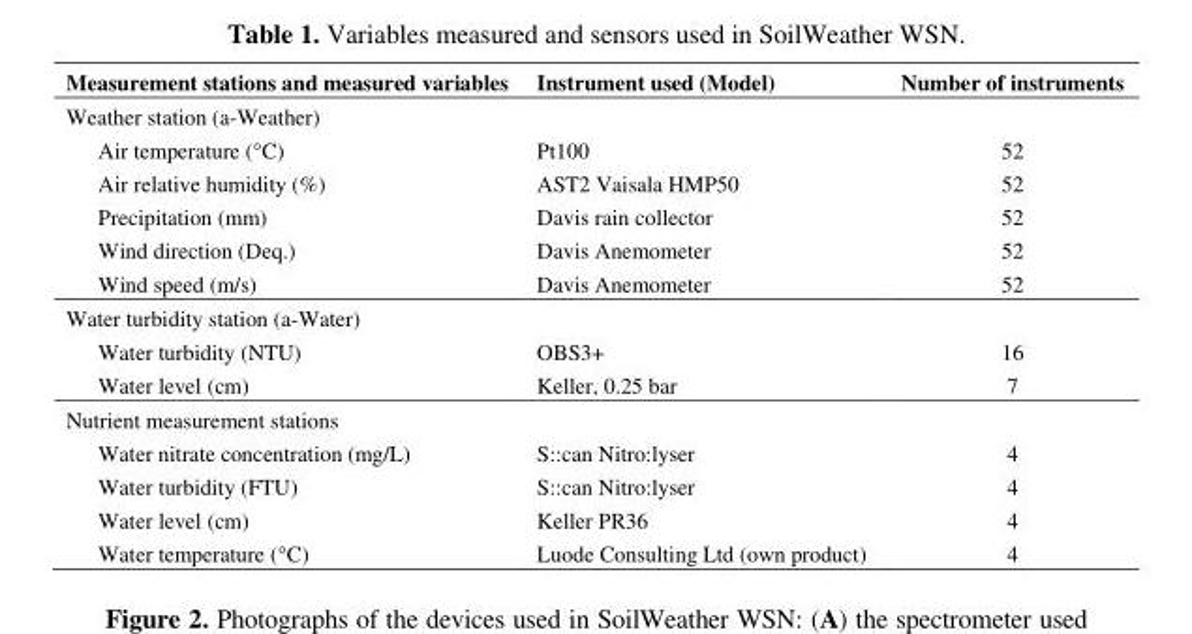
<table><thead><tr><td>Measurement stations and measured variables</td><td>Instrument used (Model)</td><td>Number of instruments</td></tr></thead><tbody><tr><td colspan="3">Weather station (a-Weather)</td></tr><tr><td>Air temperature (°C)</td><td>Pt100</td><td>52</td></tr><tr><td>Air relative humidity (%)</td><td>AST2 Vaisala HMP50</td><td>52</td></tr><tr><td>Precipitation (mm)</td><td>Davis rain collector</td><td>52</td></tr><tr><td>Wind direction (Deq.)</td><td>Davis Anemometer</td><td>52</td></tr><tr><td>Wind speed (m/s)</td><td>Davis Anemometer</td><td>52</td></tr><tr><td colspan="3">Water turbidity station (a-Water)</td></tr><tr><td>Water turbidity (NTU)</td><td>OBS3+</td><td>16</td></tr><tr><td>Water level (cm)</td><td>Keller, 0.25 bar</td><td>7</td></tr><tr><td colspan="3">Nutrient measurement stations</td></tr><tr><td>Water nitrate concentration (mg/L)</td><td>S::can Nitro:lyser</td><td>4</td></tr><tr><td>Water turbidity (FTU)</td><td>S::can Nitro:lyser</td><td>4</td></tr><tr><td>Water level (cm)</td><td>Keller PR36</td><td>4</td></tr><tr><td>Water temperature (°C)</td><td>Luode Consulting Ltd (own product)</td><td>4</td></tr></tbody></table>